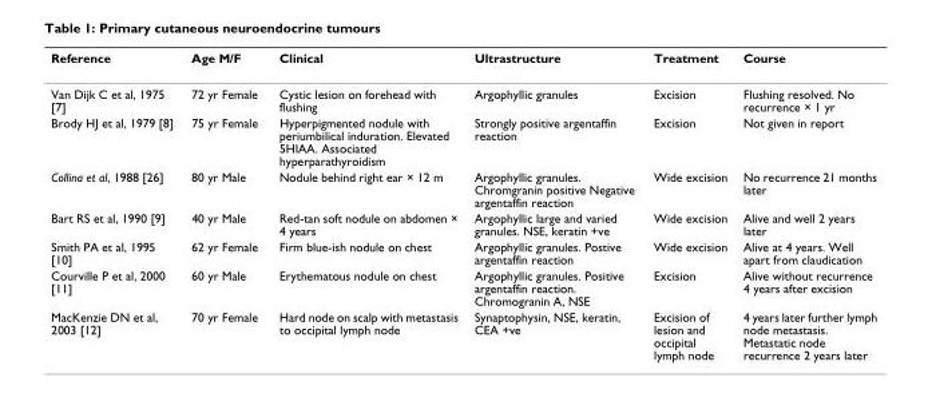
<table><thead><tr><td>Reference</td><td>Age M/F</td><td>Clinical</td><td>Ultrastructure</td><td>Treatment</td><td>Course</td></tr></thead><tbody><tr><td>Van Dijk C et al, 1975 [7]</td><td>72 yr Female</td><td>Cystic lesion on forehead with flushing</td><td>Argophyllic granules</td><td>Excision</td><td>Flushing resolved. No recurrence × 1 yr</td></tr><tr><td>Brody HJ et al, 1979 [8]</td><td>75 yr Female</td><td>Hyperpigmented nodule with periumbilical induration. Elevated 5HIAA. Associated hyperparathyroidism</td><td>Strongly positive argentaffin reaction</td><td>Excision</td><td>Not given in report</td></tr><tr><td>Collina et al, 1988 [26]</td><td>80 yr Male</td><td>Nodule behind right ear × 12 m</td><td>Argophyllic granules. Chromgranin positive Negative argentaffin reaction</td><td>Wide excision</td><td>No recurrence 21 months later</td></tr><tr><td>Bart RS et al, 1990 [9]</td><td>40 yr Male</td><td>Red-tan soft nodule on abdomen × 4 years</td><td>Argophyllic large and varied granules. NSE, keratin +ve</td><td>Wide excision</td><td>Alive and well 2 years later</td></tr><tr><td>Smith PA et al, 1995 [10]</td><td>62 yr Female</td><td>Firm blue-ish nodule on chest</td><td>Argophyllic granules. Postive argentaffin reaction</td><td>Wide excision</td><td>Alive at 4 years. Well apart from claudication</td></tr><tr><td>Courville P et al, 2000 [11]</td><td>60 yr Male</td><td>Erythematous nodule on chest</td><td>Argophyllic granules. Positive argentaffin reaction. Chromogranin A, NSE</td><td>Excision</td><td>Alive without recurrence 4 years after excision</td></tr><tr><td>MacKenzie DN et al, 2003 [12]</td><td>70 yr Female</td><td>Hard node on scalp with metastasis to occipital lymph node</td><td>Synaptophysin, NSE, keratin, CEA +ve</td><td>Excision of lesion and occipital lymph node</td><td>4 years later further lymph node metastasis. Metastatic node recurrence 2 years later</td></tr></tbody></table>